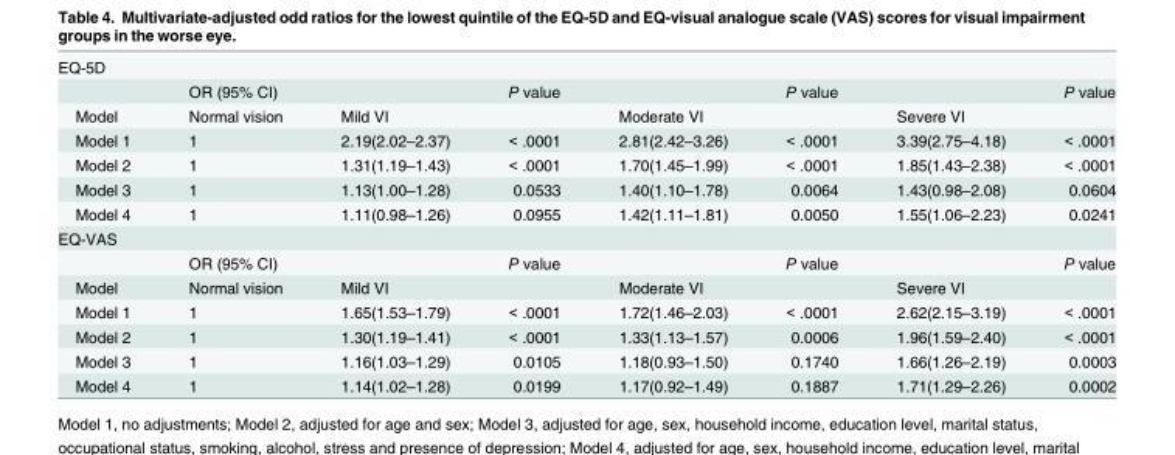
<table><tbody><tr><td colspan="8">EQ-5D</td></tr><tr><td></td><td>OR (95% CI)</td><td></td><td>P value</td><td></td><td>P value</td><td></td><td>P value</td></tr><tr><td>Model</td><td>Normal vision</td><td>Mild VI</td><td></td><td>Moderate VI</td><td></td><td>Severe VI</td><td></td></tr><tr><td>Model 1</td><td>1</td><td>2.19(2.02–2.37)</td><td>&lt; .0001</td><td>2.81(2.42–3.26)</td><td>&lt; .0001</td><td>3.39(2.75–4.18)</td><td>&lt; .0001</td></tr><tr><td>Model 2</td><td>1</td><td>1.31(1.19–1.43)</td><td>&lt; .0001</td><td>1.70(1.45–1.99)</td><td>&lt; .0001</td><td>1.85(1.43–2.38)</td><td>&lt; .0001</td></tr><tr><td>Model 3</td><td>1</td><td>1.13(1.00–1.28)</td><td>0.0533</td><td>1.40(1.10–1.78)</td><td>0.0064</td><td>1.43(0.98–2.08)</td><td>0.0604</td></tr><tr><td>Model 4</td><td>1</td><td>1.11(0.98–1.26)</td><td>0.0955</td><td>1.42(1.11–1.81)</td><td>0.0050</td><td>1.55(1.06–2.23)</td><td>0.0241</td></tr><tr><td colspan="8">EQ-VAS</td></tr><tr><td></td><td>OR (95% CI)</td><td></td><td>P value</td><td></td><td>P value</td><td></td><td>P value</td></tr><tr><td>Model</td><td>Normal vision</td><td>Mild VI</td><td></td><td>Moderate VI</td><td></td><td>Severe VI</td><td></td></tr><tr><td>Model 1</td><td>1</td><td>1.65(1.53–1.79)</td><td>&lt; .0001</td><td>1.72(1.46–2.03)</td><td>&lt; .0001</td><td>2.62(2.15–3.19)</td><td>&lt; .0001</td></tr><tr><td>Model 2</td><td>1</td><td>1.30(1.19–1.41)</td><td>&lt; .0001</td><td>1.33(1.13–1.57)</td><td>0.0006</td><td>1.96(1.59–2.40)</td><td>&lt; .0001</td></tr><tr><td>Model 3</td><td>1</td><td>1.16(1.03–1.29)</td><td>0.0105</td><td>1.18(0.93–1.50)</td><td>0.1740</td><td>1.66(1.26–2.19)</td><td>0.0003</td></tr><tr><td>Model 4</td><td>1</td><td>1.14(1.02–1.28)</td><td>0.0199</td><td>1.17(0.92–1.49)</td><td>0.1887</td><td>1.71(1.29–2.26)</td><td>0.0002</td></tr></tbody></table>